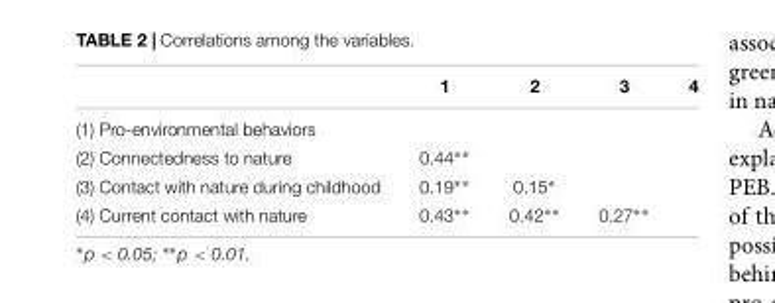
<table><thead><tr><td></td><td>1</td><td>2</td><td>3</td><td>4</td></tr></thead><tbody><tr><td colspan="5">(1) Pro-environmental behaviors</td></tr><tr><td>(2) Connectedness to nature</td><td>0.44∗∗</td><td></td><td></td><td></td></tr><tr><td>(3) Contact with nature during childhood</td><td>0.19∗∗</td><td>0.15∗</td><td></td><td></td></tr><tr><td>(4) Current contact with nature</td><td>0.43∗∗</td><td>0.42∗∗</td><td>0.27∗∗</td><td></td></tr></tbody></table>